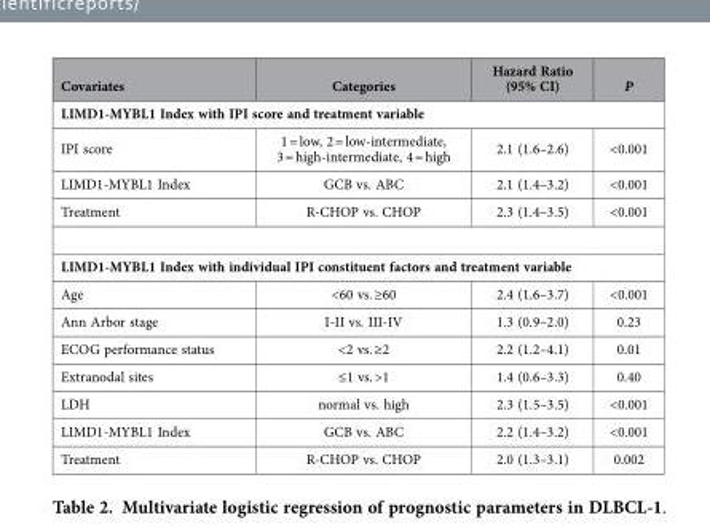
<table><thead><tr><td>Covariates</td><td>Categories</td><td>Hazard Ratio (95% CI)</td><td>P</td></tr></thead><tbody><tr><td colspan="4">LIMD1-MYBL1 Index with IPI score and treatment variable</td></tr><tr><td>IPI score</td><td>1 = low, 2 = low-intermediate, 3 = high-intermediate, 4 = high</td><td>2.1 (1.6–2.6)</td><td>&lt;0.001</td></tr><tr><td>LIMD1-MYBL1 Index</td><td>GCB vs. ABC</td><td>2.1 (1.4–3.2)</td><td>&lt;0.001</td></tr><tr><td>Treatment</td><td>R-CHOP vs. CHOP</td><td>2.3 (1.4–3.5)</td><td>&lt;0.001</td></tr><tr><td colspan="4">LIMD1-MYBL1 Index with individual IPI constituent factors and treatment variable</td></tr><tr><td>Age</td><td>&lt;60 vs. ≥60</td><td>2.4 (1.6–3.7)</td><td>&lt;0.001</td></tr><tr><td>Ann Arbor stage</td><td>I-II vs. III-IV</td><td>1.3 (0.9–2.0)</td><td>0.23</td></tr><tr><td>ECOG performance status</td><td>&lt;2 vs. ≥2</td><td>2.2 (1.2–4.1)</td><td>0.01</td></tr><tr><td>Extranodal sites</td><td>≤1 vs. &gt;1</td><td>1.4 (0.6–3.3)</td><td>0.40</td></tr><tr><td>LDH</td><td>normal vs. high</td><td>2.3 (1.5–3.5)</td><td>&lt;0.001</td></tr><tr><td>LIMD1-MYBL1 Index</td><td>GCB vs. ABC</td><td>2.2 (1.4–3.2)</td><td>&lt;0.001</td></tr><tr><td>Treatment</td><td>R-CHOP vs. CHOP</td><td>2.0 (1.3–3.1)</td><td>0.002</td></tr></tbody></table>